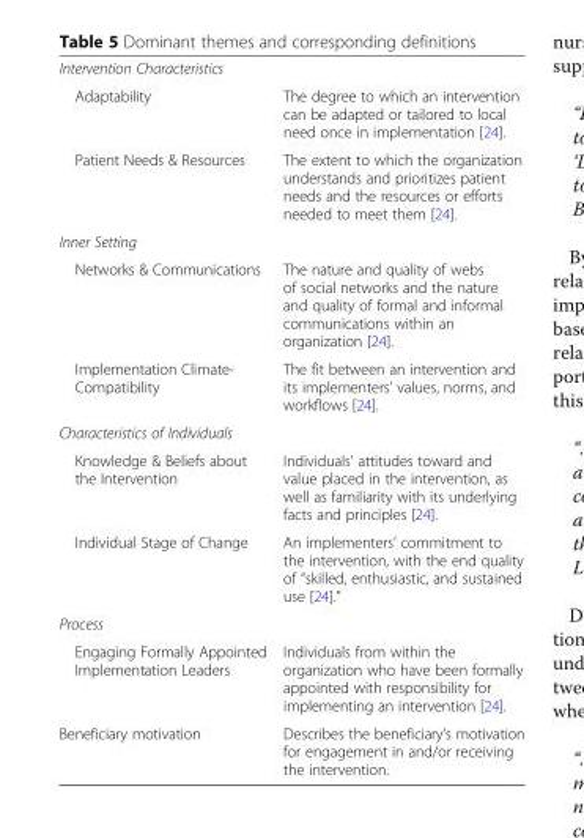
<table><tbody><tr><td colspan="2">Intervention Characteristics</td></tr><tr><td>Adaptability</td><td>The degree to which an intervention can be adapted or tailored to local need once in implementation [24].</td></tr><tr><td>Patient Needs &amp; Resources</td><td>The extent to which the organization understands and prioritizes patient needs and the resources or efforts needed to meet them [24].</td></tr><tr><td colspan="2">Inner Setting</td></tr><tr><td>Networks &amp; Communications</td><td>The nature and quality of webs of social networks and the nature and quality of formal and informal communications within an organization [24].</td></tr><tr><td>Implementation Climate- Compatibility</td><td>The fit between an intervention and its implementers’ values, norms, and workflows [24].</td></tr><tr><td colspan="2">Characteristics of Individuals</td></tr><tr><td>Knowledge &amp; Beliefs about the Intervention</td><td>Individuals’ attitudes toward and value placed in the intervention, as well as familiarity with its underlying facts and principles [24].</td></tr><tr><td>Individual Stage of Change</td><td>An implementers’ commitment to the intervention, with the end quality of “skilled, enthusiastic, and sustained use [24].”</td></tr><tr><td colspan="2">Process</td></tr><tr><td>Engaging Formally Appointed Implementation Leaders</td><td>Individuals from within the organization who have been formally appointed with responsibility for implementing an intervention [24].</td></tr><tr><td>Beneficiary motivation</td><td>Describes the beneficiary’s motivation for engagement in and/or receiving the intervention.</td></tr></tbody></table>